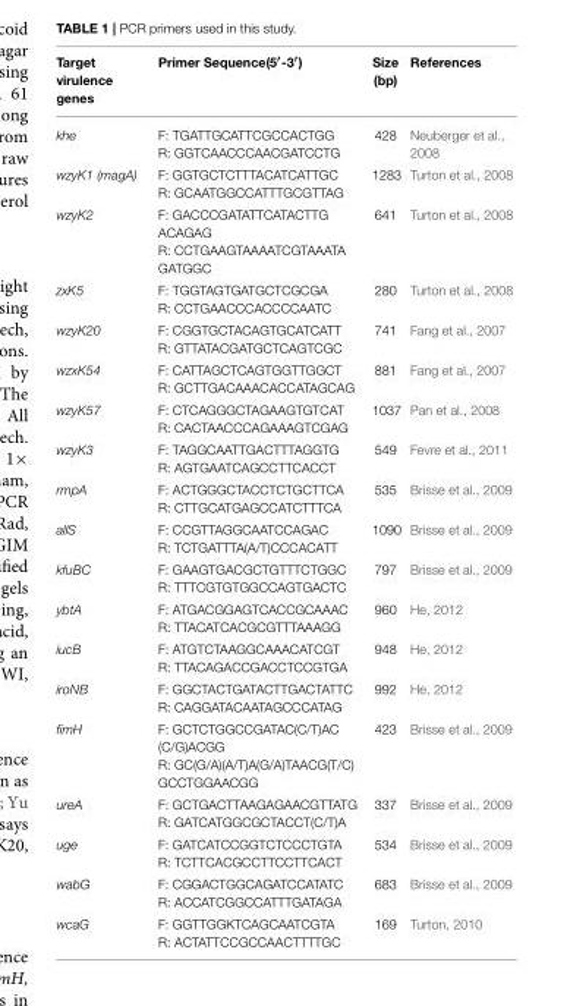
<table><thead><tr><td>Target virulence genes</td><td>Primer Sequence(5′-3′)</td><td>Size (bp)</td><td>References</td></tr></thead><tbody><tr><td>khe</td><td>F: TGATTGCATTCGCCACTGG R: GGTCAACCCAACGATCCTG</td><td>428</td><td>Neuberger et al., 2008</td></tr><tr><td>wzyK1 (magA)</td><td>F: GGTGCTCTTTACATCATTGC R: GCAATGGCCATTTGCGTTAG</td><td>1283</td><td>Turton et al., 2008</td></tr><tr><td>wzyK2</td><td>F: GACCCGATATTCATACTTG ACAGAG R: CCTGAAGTAAAATCGTAAATA GATGGC</td><td>641</td><td>Turton et al., 2008</td></tr><tr><td>zxK5</td><td>F: TGGTAGTGATGCTCGCGA R: CCTGAACCCACCCCAATC</td><td>280</td><td>Turton et al., 2008</td></tr><tr><td>wzyK20</td><td>F: CGGTGCTACAGTGCATCATT R: GTTATACGATGCTCAGTCGC</td><td>741</td><td>Fang et al., 2007</td></tr><tr><td>wzxK54</td><td>F: CATTAGCTCAGTGGTTGGCT R: GCTTGACAAACACCATAGCAG</td><td>881</td><td>Fang et al., 2007</td></tr><tr><td>wzyK57</td><td>F: CTCAGGGCTAGAAGTGTCAT R: CACTAACCCAGAAAGTCGAG</td><td>1037</td><td>Pan et al., 2008</td></tr><tr><td>wzyK3</td><td>F: TAGGCAATTGACTTTAGGTG R: AGTGAATCAGCCTTCACCT</td><td>549</td><td>Fevre et al., 2011</td></tr><tr><td>rmpA</td><td>F: ACTGGGCTACCTCTGCTTCA R: CTTGCATGAGCCATCTTTCA</td><td>535</td><td>Brisse et al., 2009</td></tr><tr><td>allS</td><td>F: CCGTTAGGCAATCCAGAC R: TCTGATTTA(A/T)CCCACATT</td><td>1090</td><td>Brisse et al., 2009</td></tr><tr><td>kfuBC</td><td>F: GAAGTGACGCTGTTTCTGGC R: TTTCGTGTGGCCAGTGACTC</td><td>797</td><td>Brisse et al., 2009</td></tr><tr><td>ybtA</td><td>F: ATGACGGAGTCACCGCAAAC R: TTACATCACGCGTTTAAAGG</td><td>960</td><td>He, 2012</td></tr><tr><td>iucB</td><td>F: ATGTCTAAGGCAAACATCGT R: TTACAGACCGACCTCCGTGA</td><td>948</td><td>He, 2012</td></tr><tr><td>iroNB</td><td>F: GGCTACTGATACTTGACTATTC R: CAGGATACAATAGCCCATAG</td><td>992</td><td>He, 2012</td></tr><tr><td>fimH</td><td>F: GCTCTGGCCGATAC(C/T)AC (C/G)ACGG R: GC(G/A)(A/T)A(G/A)TAACG(T/C) GCCTGGAACGG</td><td>423</td><td>Brisse et al., 2009</td></tr><tr><td>ureA</td><td>F: GCTGACTTAAGAGAACGTTATG R: GATCATGGCGCTACCT(C/T)A</td><td>337</td><td>Brisse et al., 2009</td></tr><tr><td>uge</td><td>F: GATCATCCGGTCTCCCTGTA R: TCTTCACGCCTTCCTTCACT</td><td>534</td><td>Brisse et al., 2009</td></tr><tr><td>wabG</td><td>F: CGGACTGGCAGATCCATATC R: ACCATCGGCCATTTGATAGA</td><td>683</td><td>Brisse et al., 2009</td></tr><tr><td>wcaG</td><td>F: GGTTGGKTCAGCAATCGTA R: ACTATTCCGCCAACTTTTGC</td><td>169</td><td>Turton, 2010</td></tr></tbody></table>